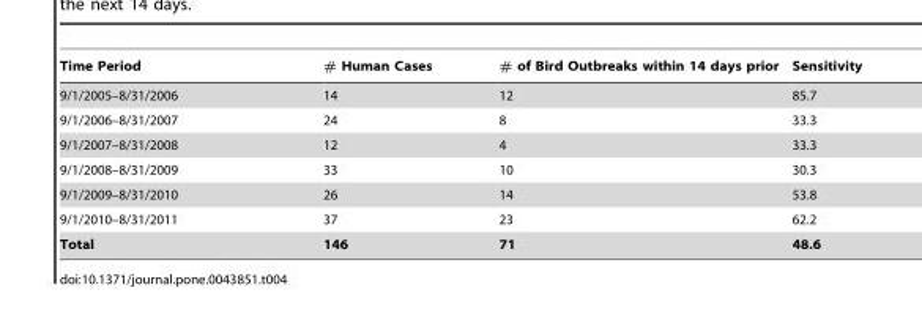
<table><thead><tr><td>Time Period</td><td># Human Cases</td><td># of Bird Outbreaks within 14 days prior</td><td>Sensitivity</td></tr></thead><tbody><tr><td>9/1/2005–8/31/2006</td><td>14</td><td>12</td><td>85.7</td></tr><tr><td>9/1/2006–8/31/2007</td><td>24</td><td>8</td><td>33.3</td></tr><tr><td>9/1/2007–8/31/2008</td><td>12</td><td>4</td><td>33.3</td></tr><tr><td>9/1/2008–8/31/2009</td><td>33</td><td>10</td><td>30.3</td></tr><tr><td>9/1/2009–8/31/2010</td><td>26</td><td>14</td><td>53.8</td></tr><tr><td>9/1/2010–8/31/2011</td><td>37</td><td>23</td><td>62.2</td></tr><tr><td>Total</td><td>146</td><td>71</td><td>48.6</td></tr></tbody></table>